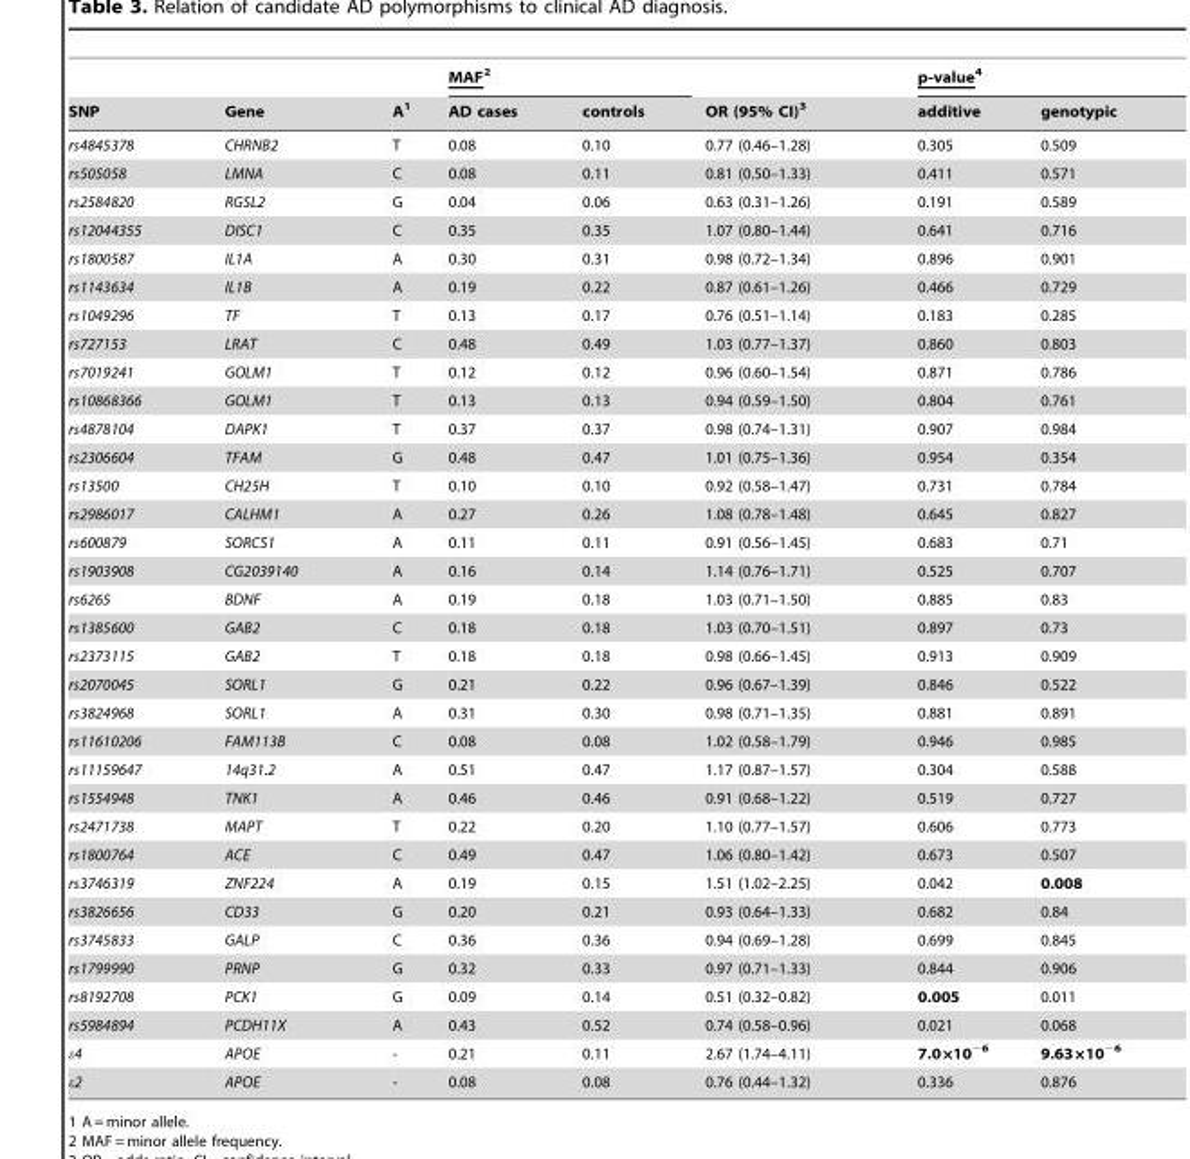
<table><thead><tr><td rowspan="2">SNP</td><td rowspan="2">Gene</td><td rowspan="2">A<sup>1</sup></td><td colspan="2">MAF2</td><td rowspan="2">OR (95% CI)<sup>3</sup></td><td colspan="2">p-value4</td></tr><tr><td>AD cases</td><td>controls</td><td>additive</td><td>genotypic</td></tr></thead><tbody><tr><td>rs4845378</td><td>CHRNB2</td><td>T</td><td>0.08</td><td>0.10</td><td>0.77 (0.46–1.28)</td><td>0.305</td><td>0.509</td></tr><tr><td>rs505058</td><td>LMNA</td><td>C</td><td>0.08</td><td>0.11</td><td>0.81 (0.50–1.33)</td><td>0.411</td><td>0.571</td></tr><tr><td>rs2584820</td><td>RGSL2</td><td>G</td><td>0.04</td><td>0.06</td><td>0.63 (0.31–1.26)</td><td>0.191</td><td>0.589</td></tr><tr><td>rs12044355</td><td>DISC1</td><td>C</td><td>0.35</td><td>0.35</td><td>1.07 (0.80–1.44)</td><td>0.641</td><td>0.716</td></tr><tr><td>rs1800587</td><td>IL1A</td><td>A</td><td>0.30</td><td>0.31</td><td>0.98 (0.72–1.34)</td><td>0.896</td><td>0.901</td></tr><tr><td>rs1143634</td><td>IL1B</td><td>A</td><td>0.19</td><td>0.22</td><td>0.87 (0.61–1.26)</td><td>0.466</td><td>0.729</td></tr><tr><td>rs1049296</td><td>TF</td><td>T</td><td>0.13</td><td>0.17</td><td>0.76 (0.51–1.14)</td><td>0.183</td><td>0.285</td></tr><tr><td>rs727153</td><td>LRAT</td><td>C</td><td>0.48</td><td>0.49</td><td>1.03 (0.77–1.37)</td><td>0.860</td><td>0.803</td></tr><tr><td>rs7019241</td><td>GOLM1</td><td>T</td><td>0.12</td><td>0.12</td><td>0.96 (0.60–1.54)</td><td>0.871</td><td>0.786</td></tr><tr><td>rs10868366</td><td>GOLM1</td><td>T</td><td>0.13</td><td>0.13</td><td>0.94 (0.59–1.50)</td><td>0.804</td><td>0.761</td></tr><tr><td>rs4878104</td><td>DAPK1</td><td>T</td><td>0.37</td><td>0.37</td><td>0.98 (0.74–1.31)</td><td>0.907</td><td>0.984</td></tr><tr><td>rs2306604</td><td>TFAM</td><td>G</td><td>0.48</td><td>0.47</td><td>1.01 (0.75–1.36)</td><td>0.954</td><td>0.354</td></tr><tr><td>rs13500</td><td>CH25H</td><td>T</td><td>0.10</td><td>0.10</td><td>0.92 (0.58–1.47)</td><td>0.731</td><td>0.784</td></tr><tr><td>rs2986017</td><td>CALHM1</td><td>A</td><td>0.27</td><td>0.26</td><td>1.08 (0.78–1.48)</td><td>0.645</td><td>0.827</td></tr><tr><td>rs600879</td><td>SORCS1</td><td>A</td><td>0.11</td><td>0.11</td><td>0.91 (0.56–1.45)</td><td>0.683</td><td>0.71</td></tr><tr><td>rs1903908</td><td>CG2039140</td><td>A</td><td>0.16</td><td>0.14</td><td>1.14 (0.76–1.71)</td><td>0.525</td><td>0.707</td></tr><tr><td>rs6265</td><td>BDNF</td><td>A</td><td>0.19</td><td>0.18</td><td>1.03 (0.71–1.50)</td><td>0.885</td><td>0.83</td></tr><tr><td>rs1385600</td><td>GAB2</td><td>C</td><td>0.18</td><td>0.18</td><td>1.03 (0.70–1.51)</td><td>0.897</td><td>0.73</td></tr><tr><td>rs2373115</td><td>GAB2</td><td>T</td><td>0.18</td><td>0.18</td><td>0.98 (0.66–1.45)</td><td>0.913</td><td>0.909</td></tr><tr><td>rs2070045</td><td>SORL1</td><td>G</td><td>0.21</td><td>0.22</td><td>0.96 (0.67–1.39)</td><td>0.846</td><td>0.522</td></tr><tr><td>rs3824968</td><td>SORL1</td><td>A</td><td>0.31</td><td>0.30</td><td>0.98 (0.71–1.35)</td><td>0.881</td><td>0.891</td></tr><tr><td>rs11610206</td><td>FAM113B</td><td>C</td><td>0.08</td><td>0.08</td><td>1.02 (0.58–1.79)</td><td>0.946</td><td>0.985</td></tr><tr><td>rs11159647</td><td>14q31.2</td><td>A</td><td>0.51</td><td>0.47</td><td>1.17 (0.87–1.57)</td><td>0.304</td><td>0.588</td></tr><tr><td>rs1554948</td><td>TNK1</td><td>A</td><td>0.46</td><td>0.46</td><td>0.91 (0.68–1.22)</td><td>0.519</td><td>0.727</td></tr><tr><td>rs2471738</td><td>MAPT</td><td>T</td><td>0.22</td><td>0.20</td><td>1.10 (0.77–1.57)</td><td>0.606</td><td>0.773</td></tr><tr><td>rs1800764</td><td>ACE</td><td>C</td><td>0.49</td><td>0.47</td><td>1.06 (0.80–1.42)</td><td>0.673</td><td>0.507</td></tr><tr><td>rs3746319</td><td>ZNF224</td><td>A</td><td>0.19</td><td>0.15</td><td>1.51 (1.02–2.25)</td><td>0.042</td><td>0.008</td></tr><tr><td>rs3826656</td><td>CD33</td><td>G</td><td>0.20</td><td>0.21</td><td>0.93 (0.64–1.33)</td><td>0.682</td><td>0.84</td></tr><tr><td>rs3745833</td><td>GALP</td><td>C</td><td>0.36</td><td>0.36</td><td>0.94 (0.69–1.28)</td><td>0.699</td><td>0.845</td></tr><tr><td>rs1799990</td><td>PRNP</td><td>G</td><td>0.32</td><td>0.33</td><td>0.97 (0.71–1.33)</td><td>0.844</td><td>0.906</td></tr><tr><td>rs8192708</td><td>PCK1</td><td>G</td><td>0.09</td><td>0.14</td><td>0.51 (0.32–0.82)</td><td>0.005</td><td>0.011</td></tr><tr><td>rs5984894</td><td>PCDH11X</td><td>A</td><td>0.43</td><td>0.52</td><td>0.74 (0.58–0.96)</td><td>0.021</td><td>0.068</td></tr><tr><td>ε4</td><td>APOE</td><td>-</td><td>0.21</td><td>0.11</td><td>2.67 (1.74–4.11)</td><td>7.0×10<sup>−6</sup></td><td>9.63×10<sup>−6</sup></td></tr><tr><td>ε2</td><td>APOE</td><td>-</td><td>0.08</td><td>0.08</td><td>0.76 (0.44–1.32)</td><td>0.336</td><td>0.876</td></tr></tbody></table>